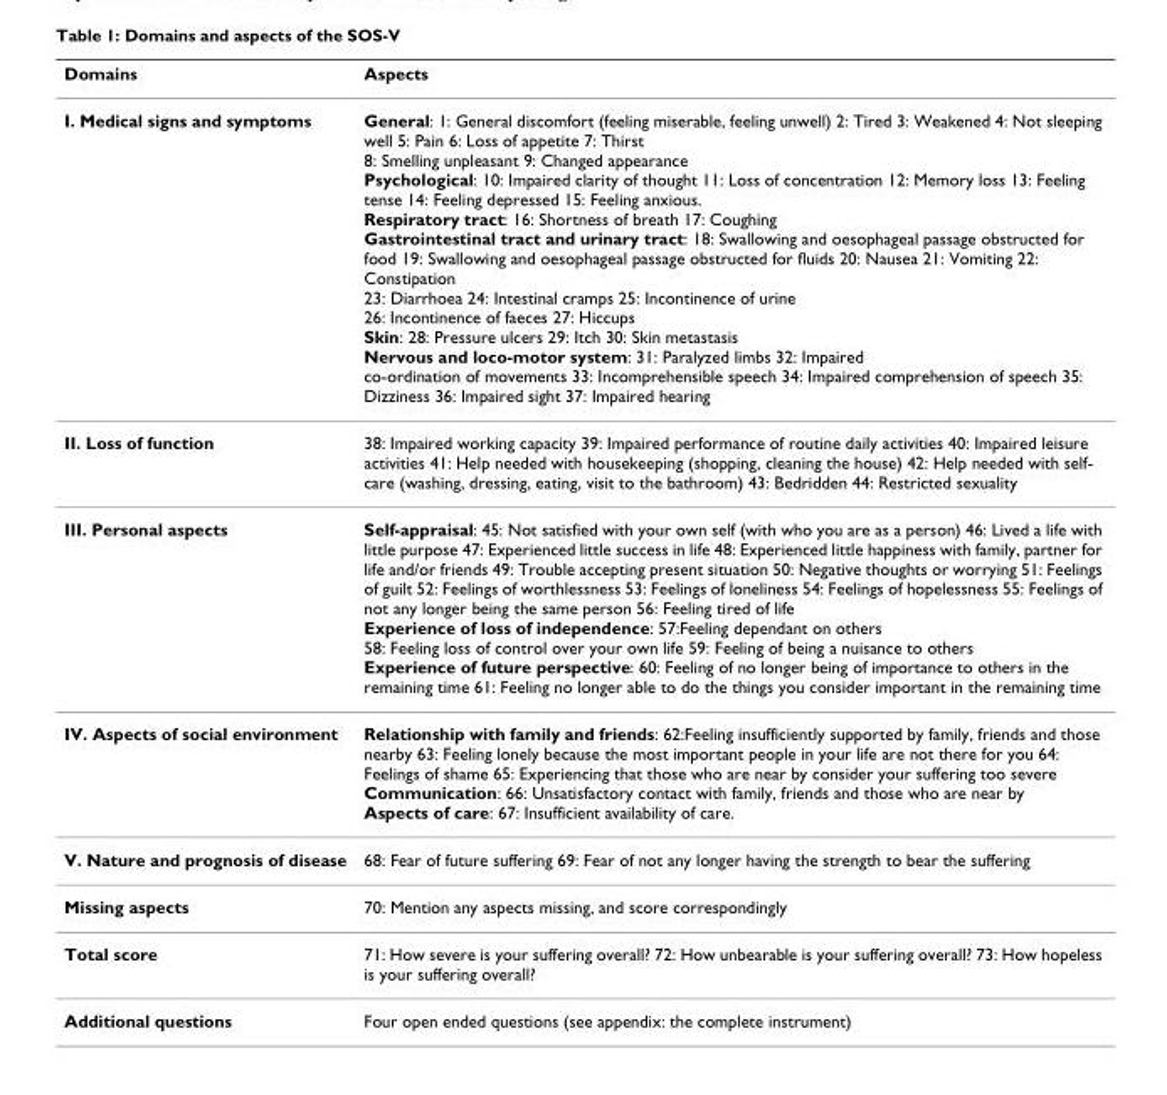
<table><thead><tr><td>Domains</td><td>Aspects</td></tr></thead><tbody><tr><td>I. Medical signs and symptoms</td><td>General: 1: General discomfort (feeling miserable, feeling unwell) 2: Tired 3: Weakened 4: Not sleeping well 5: Pain 6: Loss of appetite 7: Thirst 8: Smelling unpleasant 9: Changed appearance Psychological: 10: Impaired clarity of thought 11: Loss of concentration 12: Memory loss 13: Feeling tense 14: Feeling depressed 15: Feeling anxious. Respiratory tract: 16: Shortness of breath 17: Coughing Gastrointestinal tract and urinary tract: 18: Swallowing and oesophageal passage obstructed for food 19: Swallowing and oesophageal passage obstructed for fluids 20: Nausea 21: Vomiting 22: Constipation 23: Diarrhoea 24: Intestinal cramps 25: Incontinence of urine 26: Incontinence of faeces 27: Hiccups Skin: 28: Pressure ulcers 29: Itch 30: Skin metastasis Nervous and loco-motor system: 31: Paralyzed limbs 32: Impaired co-ordination of movements 33: Incomprehensible speech 34: Impaired comprehension of speech 35: Dizziness 36: Impaired sight 37: Impaired hearing</td></tr><tr><td>II. Loss of function</td><td>38: Impaired working capacity 39: Impaired performance of routine daily activities 40: Impaired leisure activities 41: Help needed with housekeeping (shopping, cleaning the house) 42: Help needed with self- care (washing, dressing, eating, visit to the bathroom) 43: Bedridden 44: Restricted sexuality</td></tr><tr><td>III. Personal aspects</td><td>Self-appraisal: 45: Not satisfied with your own self (with who you are as a person) 46: Lived a life with little purpose 47: Experienced little success in life 48: Experienced little happiness with family, partner for life and/or friends 49: Trouble accepting present situation 50: Negative thoughts or worrying 51: Feelings of guilt 52: Feelings of worthlessness 53: Feelings of loneliness 54: Feelings of hopelessness 55: Feelings of not any longer being the same person 56: Feeling tired of life Experience of loss of independence: 57:Feeling dependant on others 58: Feeling loss of control over your own life 59: Feeling of being a nuisance to others Experience of future perspective: 60: Feeling of no longer being of importance to others in the remaining time 61: Feeling no longer able to do the things you consider important in the remaining time</td></tr><tr><td>IV. Aspects of social environment</td><td>Relationship with family and friends: 62:Feeling insufficiently supported by family, friends and those nearby 63: Feeling lonely because the most important people in your life are not there for you 64: Feelings of shame 65: Experiencing that those who are near by consider your suffering too severe Communication: 66: Unsatisfactory contact with family, friends and those who are near by Aspects of care: 67: Insufficient availability of care.</td></tr><tr><td>V. Nature and prognosis of disease</td><td>68: Fear of future suffering 69: Fear of not any longer having the strength to bear the suffering</td></tr><tr><td>Missing aspects</td><td>70: Mention any aspects missing, and score correspondingly</td></tr><tr><td>Total score</td><td>71: How severe is your suffering overall? 72: How unbearable is your suffering overall? 73: How hopeless is your suffering overall?</td></tr><tr><td>Additional questions</td><td>Four open ended questions (see appendix: the complete instrument)</td></tr></tbody></table>